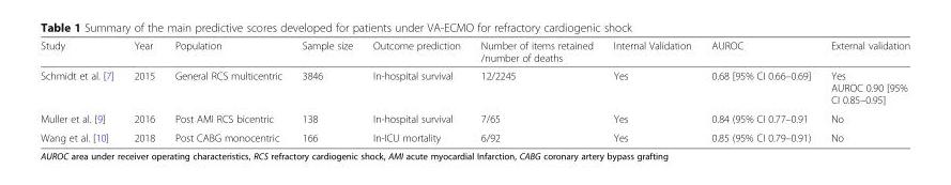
<table><thead><tr><td>Study</td><td>Year</td><td>Population</td><td>Sample size</td><td>Outcome prediction</td><td>Number of items retained /number of deaths</td><td>Internal Validation</td><td>AUROC</td><td>External validation</td></tr></thead><tbody><tr><td>Schmidt et al. [7]</td><td>2015</td><td>General RCS multicentric</td><td>3846</td><td>In-hospital survival</td><td>12/2245</td><td>Yes</td><td>0.68 [95% CI 0.66–0.69]</td><td>Yes AUROC 0.90 [95% CI 0.85–0.95]</td></tr><tr><td>Muller et al. [9]</td><td>2016</td><td>Post AMI RCS bicentric</td><td>138</td><td>In-hospital survival</td><td>7/65</td><td>Yes</td><td>0.84 (95% CI 0.77–0.91</td><td>No</td></tr><tr><td>Wang et al. [10]</td><td>2018</td><td>Post CABG monocentric</td><td>166</td><td>In-ICU mortality</td><td>6/92</td><td>Yes</td><td>0.85 (95% CI 0.79–0.91)</td><td>No</td></tr></tbody></table>